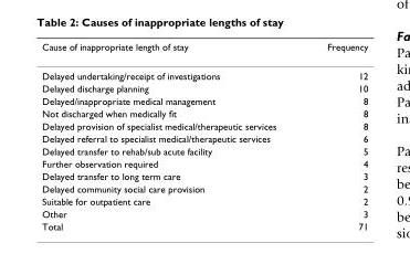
<table><thead><tr><td>Cause of inappropriate length of stay</td><td>Frequency</td></tr></thead><tbody><tr><td>Delayed undertaking/receipt of investigations</td><td>12</td></tr><tr><td>Delayed discharge planning</td><td>10</td></tr><tr><td>Delayed/inappropriate medical management</td><td>8</td></tr><tr><td>Not discharged when medically fit</td><td>8</td></tr><tr><td>Delayed provision of specialist medical/therapeutic services</td><td>8</td></tr><tr><td>Delayed referral to specialist medical/therapeutic services</td><td>6</td></tr><tr><td>Delayed transfer to rehab/sub acute facility</td><td>5</td></tr><tr><td>Further observation required</td><td>4</td></tr><tr><td>Delayed transfer to long term care</td><td>3</td></tr><tr><td>Delayed community social care provision</td><td>2</td></tr><tr><td>Suitable for outpatient care</td><td>2</td></tr><tr><td>Other</td><td>3</td></tr><tr><td>Total</td><td>71</td></tr></tbody></table>